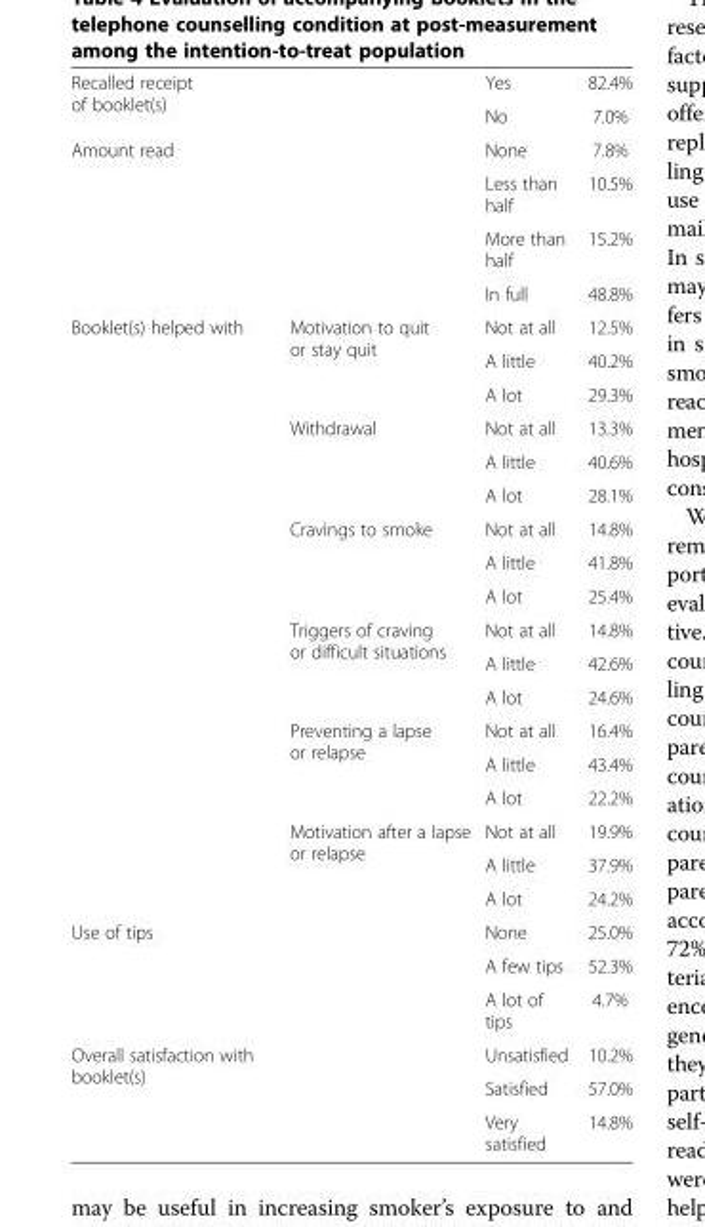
<table><tbody><tr><td rowspan="2">Recalled receipt of booklet(s)</td><td rowspan="2"></td><td>Yes</td><td>82.4%</td></tr><tr><td>No</td><td>7.0%</td></tr><tr><td rowspan="4">Amount read</td><td rowspan="4"></td><td>None</td><td>7.8%</td></tr><tr><td>Less than half</td><td>10.5%</td></tr><tr><td>More than half</td><td>15.2%</td></tr><tr><td>In full</td><td>48.8%</td></tr><tr><td rowspan="18">Booklet(s) helped with</td><td rowspan="3">Motivation to quit or stay quit</td><td>Not at all</td><td>12.5%</td></tr><tr><td>A little</td><td>40.2%</td></tr><tr><td>A lot</td><td>29.3%</td></tr><tr><td rowspan="3">Withdrawal</td><td>Not at all</td><td>13.3%</td></tr><tr><td>A little</td><td>40.6%</td></tr><tr><td>A lot</td><td>28.1%</td></tr><tr><td rowspan="3">Cravings to smoke</td><td>Not at all</td><td>14.8%</td></tr><tr><td>A little</td><td>41.8%</td></tr><tr><td>A lot</td><td>25.4%</td></tr><tr><td rowspan="3">Triggers of craving or difficult situations</td><td>Not at all</td><td>14.8%</td></tr><tr><td>A little</td><td>42.6%</td></tr><tr><td>A lot</td><td>24.6%</td></tr><tr><td rowspan="3">Preventing a lapse or relapse</td><td>Not at all</td><td>16.4%</td></tr><tr><td>A little</td><td>43.4%</td></tr><tr><td>A lot</td><td>22.2%</td></tr><tr><td rowspan="3">Motivation after a lapse or relapse</td><td>Not at all</td><td>19.9%</td></tr><tr><td>A little</td><td>37.9%</td></tr><tr><td>A lot</td><td>24.2%</td></tr><tr><td rowspan="3">Use of tips</td><td rowspan="3"></td><td>None</td><td>25.0%</td></tr><tr><td>A few tips</td><td>52.3%</td></tr><tr><td>A lot of tips</td><td>4.7%</td></tr><tr><td rowspan="3">Overall satisfaction with booklet(s)</td><td rowspan="3"></td><td>Unsatisfied</td><td>10.2%</td></tr><tr><td>Satisfied</td><td>57.0%</td></tr><tr><td>Very satisfied</td><td>14.8%</td></tr></tbody></table>